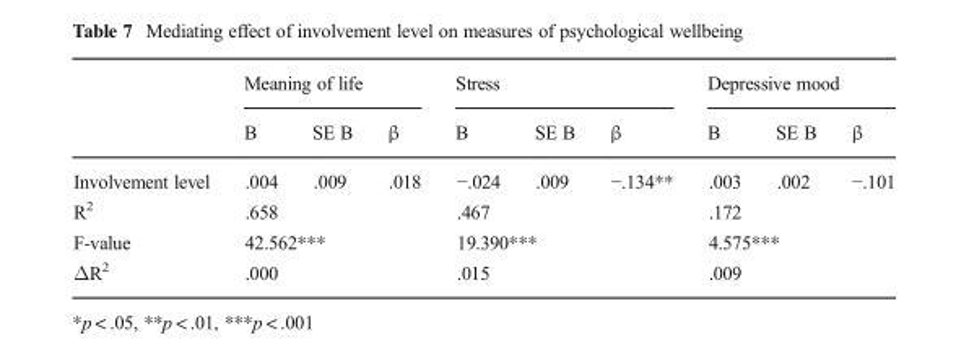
<table><thead><tr><td rowspan="2"></td><td colspan="3">Meaning of life</td><td colspan="3">Stress</td><td colspan="3">Depressive mood</td></tr><tr><td>B</td><td>SE B</td><td>β</td><td>B</td><td>SE B</td><td>β</td><td>B</td><td>SE B</td><td>β</td></tr></thead><tbody><tr><td>Involvement level</td><td>.004</td><td>.009</td><td>.018</td><td>−.024</td><td>.009</td><td>−.134**</td><td>.003</td><td>.002</td><td>−.101</td></tr><tr><td>R<sup>2</sup></td><td colspan="3">.658</td><td colspan="3">.467</td><td colspan="3">.172</td></tr><tr><td>F-value</td><td colspan="3">42.562***</td><td colspan="3">19.390***</td><td colspan="3">4.575***</td></tr><tr><td>ΔR<sup>2</sup></td><td colspan="3">.000</td><td colspan="3">.015</td><td colspan="3">.009</td></tr></tbody></table>